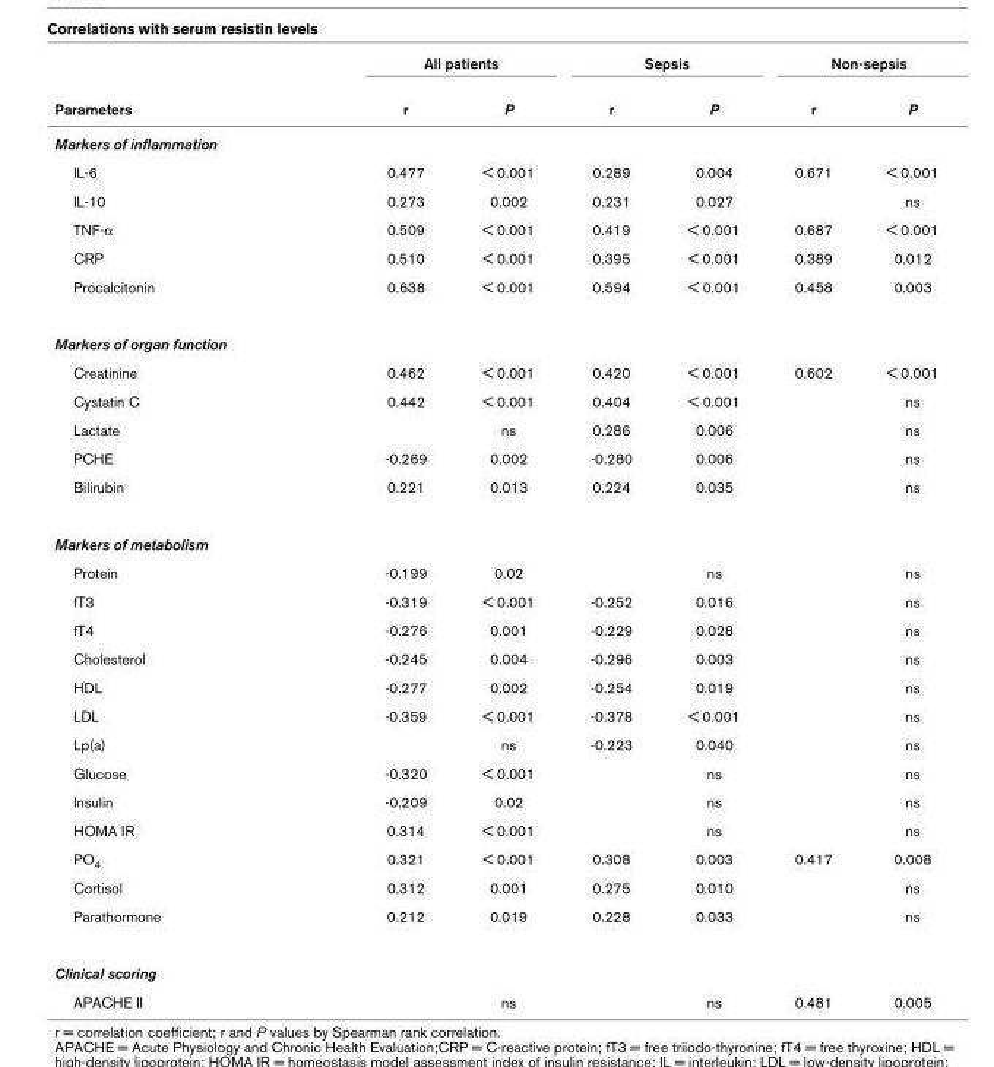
<table><thead><tr><td rowspan="2">Parameters</td><td colspan="2">All patients</td><td colspan="2">Sepsis</td><td colspan="2">Non-sepsis</td></tr><tr><td>r</td><td>P</td><td>r</td><td>P</td><td>r</td><td>P</td></tr></thead><tbody><tr><td colspan="7">Markers of inflammation</td></tr><tr><td>IL-6</td><td>0.477</td><td>&lt; 0.001</td><td>0.289</td><td>0.004</td><td>0.671</td><td>&lt; 0.001</td></tr><tr><td>IL-10</td><td>0.273</td><td>0.002</td><td>0.231</td><td>0.027</td><td></td><td>ns</td></tr><tr><td>TNF-α</td><td>0.509</td><td>&lt; 0.001</td><td>0.419</td><td>&lt; 0.001</td><td>0.687</td><td>&lt; 0.001</td></tr><tr><td>CRP</td><td>0.510</td><td>&lt; 0.001</td><td>0.395</td><td>&lt; 0.001</td><td>0.389</td><td>0.012</td></tr><tr><td>Procalcitonin</td><td>0.638</td><td>&lt; 0.001</td><td>0.594</td><td>&lt; 0.001</td><td>0.458</td><td>0.003</td></tr><tr><td colspan="7">Markers of organ function</td></tr><tr><td>Creatinine</td><td>0.462</td><td>&lt; 0.001</td><td>0.420</td><td>&lt; 0.001</td><td>0.602</td><td>&lt; 0.001</td></tr><tr><td>Cystatin C</td><td>0.442</td><td>&lt; 0.001</td><td>0.404</td><td>&lt; 0.001</td><td></td><td>ns</td></tr><tr><td>Lactate</td><td></td><td>ns</td><td>0.286</td><td>0.006</td><td></td><td>ns</td></tr><tr><td>PCHE</td><td>-0.269</td><td>0.002</td><td>-0.280</td><td>0.006</td><td></td><td>ns</td></tr><tr><td>Bilirubin</td><td>0.221</td><td>0.013</td><td>0.224</td><td>0.035</td><td></td><td>ns</td></tr><tr><td colspan="7">Markers of metabolism</td></tr><tr><td>Protein</td><td>-0.199</td><td>0.02</td><td></td><td>ns</td><td></td><td>ns</td></tr><tr><td>fT3</td><td>-0.319</td><td>&lt; 0.001</td><td>-0.252</td><td>0.016</td><td></td><td>ns</td></tr><tr><td>fT4</td><td>-0.276</td><td>0.001</td><td>-0.229</td><td>0.028</td><td></td><td>ns</td></tr><tr><td>Cholesterol</td><td>-0.245</td><td>0.004</td><td>-0.296</td><td>0.003</td><td></td><td>ns</td></tr><tr><td>HDL</td><td>-0.277</td><td>0.002</td><td>-0.254</td><td>0.019</td><td></td><td>ns</td></tr><tr><td>LDL</td><td>-0.359</td><td>&lt; 0.001</td><td>-0.378</td><td>&lt; 0.001</td><td></td><td>ns</td></tr><tr><td>Lp(a)</td><td></td><td>ns</td><td>-0.223</td><td>0.040</td><td></td><td>ns</td></tr><tr><td>Glucose</td><td>-0.320</td><td>&lt; 0.001</td><td></td><td>ns</td><td></td><td>ns</td></tr><tr><td>Insulin</td><td>-0.209</td><td>0.02</td><td></td><td>ns</td><td></td><td>ns</td></tr><tr><td>HOMA IR</td><td>0.314</td><td>&lt; 0.001</td><td></td><td>ns</td><td></td><td>ns</td></tr><tr><td>PO<sub>4</sub></td><td>0.321</td><td>&lt; 0.001</td><td>0.308</td><td>0.003</td><td>0.417</td><td>0.008</td></tr><tr><td>Cortisol</td><td>0.312</td><td>0.001</td><td>0.275</td><td>0.010</td><td></td><td>ns</td></tr><tr><td>Parathormone</td><td>0.212</td><td>0.019</td><td>0.228</td><td>0.033</td><td></td><td>ns</td></tr><tr><td colspan="7">Clinical scoring</td></tr><tr><td>APACHE II</td><td></td><td>ns</td><td></td><td>ns</td><td>0.481</td><td>0.005</td></tr></tbody></table>